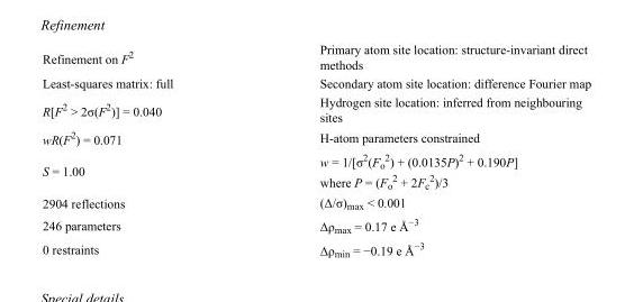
<table><tbody><tr><td>Refinement on F<sup>2</sup></td><td>Primary atom site location: structure-invariant direct methods</td></tr><tr><td>Least-squares matrix: full</td><td>Secondary atom site location: difference Fourier map</td></tr><tr><td>R[F<sup>2</sup> &gt; 2σ(F<sup>2</sup>)] = 0.040</td><td>Hydrogen site location: inferred from neighbouring sites</td></tr><tr><td>wR(F<sup>2</sup>) = 0.071</td><td>H-atom parameters constrained</td></tr><tr><td>S = 1.00</td><td>w = 1/[σ<sup>2</sup>(F<sub>o</sub> <sup>2</sup>) + (0.0135P)<sup>2</sup> + 0.190P] where P = (F<sub>o</sub> <sup>2</sup> + 2F<sub>c</sub> <sup>2</sup>)/3</td></tr><tr><td>2904 reflections</td><td>(Δ/σ)<sub>max</sub> &lt; 0.001</td></tr><tr><td>246 parameters</td><td>Δρ<sub>max</sub> = 0.17 e Å<sup>−3</sup></td></tr><tr><td>0 restraints</td><td>Δρ<sub>min</sub> = −0.19 e Å<sup>−3</sup></td></tr></tbody></table>